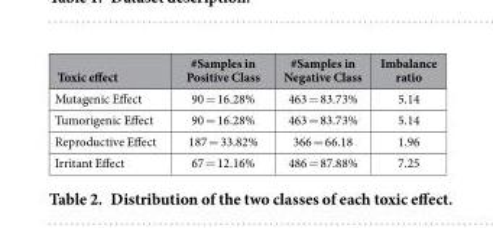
<table><thead><tr><td>Toxic effect</td><td>#Samples in Positive Class</td><td>#Samples in Negative Class</td><td>Imbalance ratio</td></tr></thead><tbody><tr><td>Mutagenic Effect</td><td>90 = 16.28%</td><td>463 = 83.73%</td><td>5.14</td></tr><tr><td>Tumorigenic Effect</td><td>90 = 16.28%</td><td>463 = 83.73%</td><td>5.14</td></tr><tr><td>Reproductive Effect</td><td>187 = 33.82%</td><td>366 = 66.18</td><td>1.96</td></tr><tr><td>Irritant Effect</td><td>67 = 12.16%</td><td>486 = 87.88%</td><td>7.25</td></tr></tbody></table>